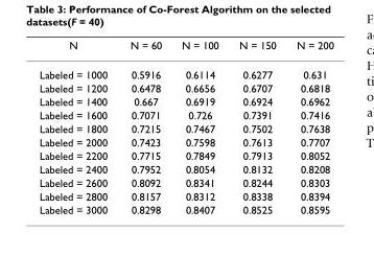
<table><thead><tr><td>N</td><td>N = 60</td><td>N = 100</td><td>N = 150</td><td>N = 200</td></tr></thead><tbody><tr><td>Labeled = 1000</td><td>0.5916</td><td>0.6114</td><td>0.6277</td><td>0.631</td></tr><tr><td>Labeled = 1200</td><td>0.6478</td><td>0.6656</td><td>0.6707</td><td>0.6818</td></tr><tr><td>Labeled = 1400</td><td>0.667</td><td>0.6919</td><td>0.6924</td><td>0.6962</td></tr><tr><td>Labeled = 1600</td><td>0.7071</td><td>0.726</td><td>0.7391</td><td>0.7416</td></tr><tr><td>Labeled = 1800</td><td>0.7215</td><td>0.7467</td><td>0.7502</td><td>0.7638</td></tr><tr><td>Labeled = 2000</td><td>0.7423</td><td>0.7598</td><td>0.7613</td><td>0.7707</td></tr><tr><td>Labeled = 2200</td><td>0.7715</td><td>0.7849</td><td>0.7913</td><td>0.8052</td></tr><tr><td>Labeled = 2400</td><td>0.7952</td><td>0.8054</td><td>0.8132</td><td>0.8208</td></tr><tr><td>Labeled = 2600</td><td>0.8092</td><td>0.8341</td><td>0.8244</td><td>0.8303</td></tr><tr><td>Labeled = 2800</td><td>0.8157</td><td>0.8312</td><td>0.8338</td><td>0.8394</td></tr><tr><td>Labeled = 3000</td><td>0.8298</td><td>0.8407</td><td>0.8525</td><td>0.8595</td></tr></tbody></table>